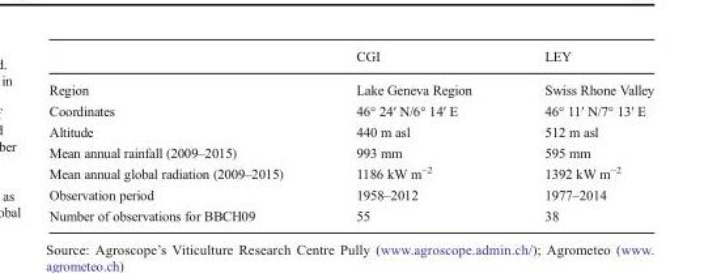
<table><thead><tr><td></td><td>CGI</td><td>LEY</td></tr></thead><tbody><tr><td>Region</td><td>Lake Geneva Region</td><td>Swiss Rhone Valley</td></tr><tr><td>Coordinates</td><td>46° 24′ N/6° 14′ E</td><td>46° 11′ N/7° 13′ E</td></tr><tr><td>Altitude</td><td>440 m asl</td><td>512 m asl</td></tr><tr><td>Mean annual rainfall (2009–2015)</td><td>993 mm</td><td>595 mm</td></tr><tr><td>Mean annual global radiation (2009–2015)</td><td>1186 kW m<sup>−2</sup></td><td>1392 kW m<sup>−2</sup></td></tr><tr><td>Observation period</td><td>1958–2012</td><td>1977–2014</td></tr><tr><td>Number of observations for BBCH09</td><td>55</td><td>38</td></tr></tbody></table>